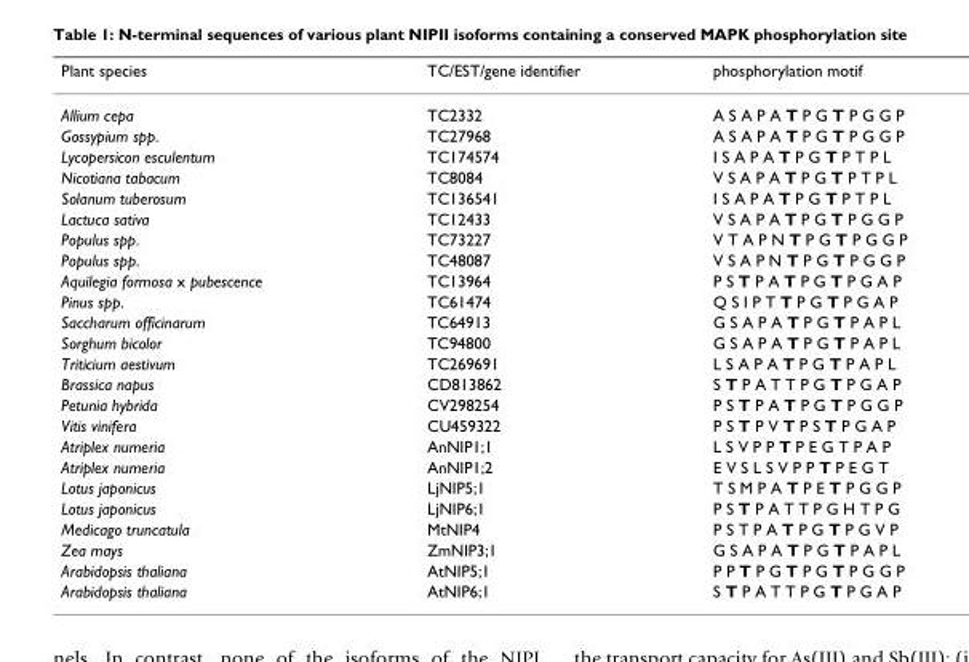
<table><thead><tr><td>Plant species</td><td>TC/EST/gene identifier</td><td>phosphorylation motif</td></tr></thead><tbody><tr><td>Allium cepa</td><td>TC2332</td><td>A S A P A T P G T P G G P</td></tr><tr><td>Gossypium spp.</td><td>TC27968</td><td>A S A P A T P G T P G G P</td></tr><tr><td>Lycopersicon esculentum</td><td>TC174574</td><td>I S A P A T P G T P T P L</td></tr><tr><td>Nicotiana tabacum</td><td>TC8084</td><td>V S A P A T P G T P T P L</td></tr><tr><td>Solanum tuberosum</td><td>TC136541</td><td>I S A P A T P G T P T P L</td></tr><tr><td>Lactuca sativa</td><td>TC12433</td><td>V S A P A T P G T P G G P</td></tr><tr><td>Populus spp.</td><td>TC73227</td><td>V T A P N T P G T P G G P</td></tr><tr><td>Populus spp.</td><td>TC48087</td><td>V S A P N T P G T P G G P</td></tr><tr><td>Aquilegia formosa x pubescence</td><td>TC13964</td><td>P S T P A T P G T P G A P</td></tr><tr><td>Pinus spp.</td><td>TC61474</td><td>Q S I P T T P G T P G A P</td></tr><tr><td>Saccharum officinarum</td><td>TC64913</td><td>G S A P A T P G T P A P L</td></tr><tr><td>Sorghum bicolor</td><td>TC94800</td><td>G S A P A T P G T P A P L</td></tr><tr><td>Triticium aestivum</td><td>TC269691</td><td>L S A P A T P G T P A P L</td></tr><tr><td>Brassica napus</td><td>CD813862</td><td>S T P A T T P G T P G A P</td></tr><tr><td>Petunia hybrida</td><td>CV298254</td><td>P S T P A T P G T P G G P</td></tr><tr><td>Vitis vinifera</td><td>CU459322</td><td>P S T P V T P S T P G A P</td></tr><tr><td>Atriplex numeria</td><td>AnNIP1;1</td><td>L S V P P T P E G T P A P</td></tr><tr><td>Atriplex numeria</td><td>AnNIP1;2</td><td>E V S L S V P P T P E G T</td></tr><tr><td>Lotus japonicus</td><td>LjNIP5;1</td><td>T S M P A T P E T P G G P</td></tr><tr><td>Lotus japonicus</td><td>LjNIP6;1</td><td>P S T P A T T P G H T P G</td></tr><tr><td>Medicago truncatula</td><td>MtNIP4</td><td>P S T P A T P G T P G V P</td></tr><tr><td>Zea mays</td><td>ZmNIP3;1</td><td>G S A P A T P G T P A P L</td></tr><tr><td>Arabidopsis thaliana</td><td>AtNIP5;1</td><td>P P T P G T P G T P G G P</td></tr><tr><td>Arabidopsis thaliana</td><td>AtNIP6;1</td><td>S T P A T T P G T P G A P</td></tr></tbody></table>